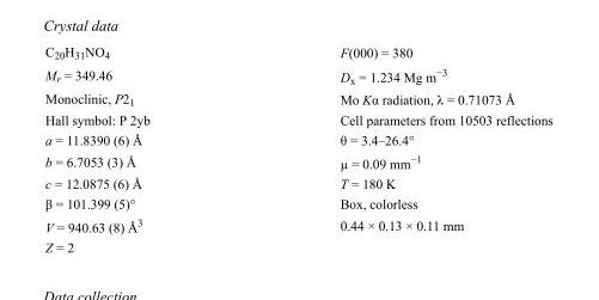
<table><tbody><tr><td>C<sub>20</sub>H<sub>31</sub>NO<sub>4</sub></td><td>F(000) = 380</td></tr><tr><td>M<sub>r</sub> = 349.46</td><td>D<sub>x</sub> = 1.234 Mg m<sup>−3</sup></td></tr><tr><td>Monoclinic, P2<sub>1</sub></td><td>Mo Kα radiation, λ = 0.71073 Å</td></tr><tr><td>Hall symbol: P 2yb</td><td>Cell parameters from 10503 reflections</td></tr><tr><td>a = 11.8390 (6) Å</td><td>θ = 3.4–26.4°</td></tr><tr><td>b = 6.7053 (3) Å</td><td>µ = 0.09 mm<sup>−1</sup></td></tr><tr><td>c = 12.0875 (6) Å</td><td>T = 180 K</td></tr><tr><td>β = 101.399 (5)°</td><td>Box, colorless</td></tr><tr><td>V = 940.63 (8) Å<sup>3</sup></td><td>0.44 × 0.13 × 0.11 mm</td></tr><tr><td>Z = 2</td><td></td></tr></tbody></table>